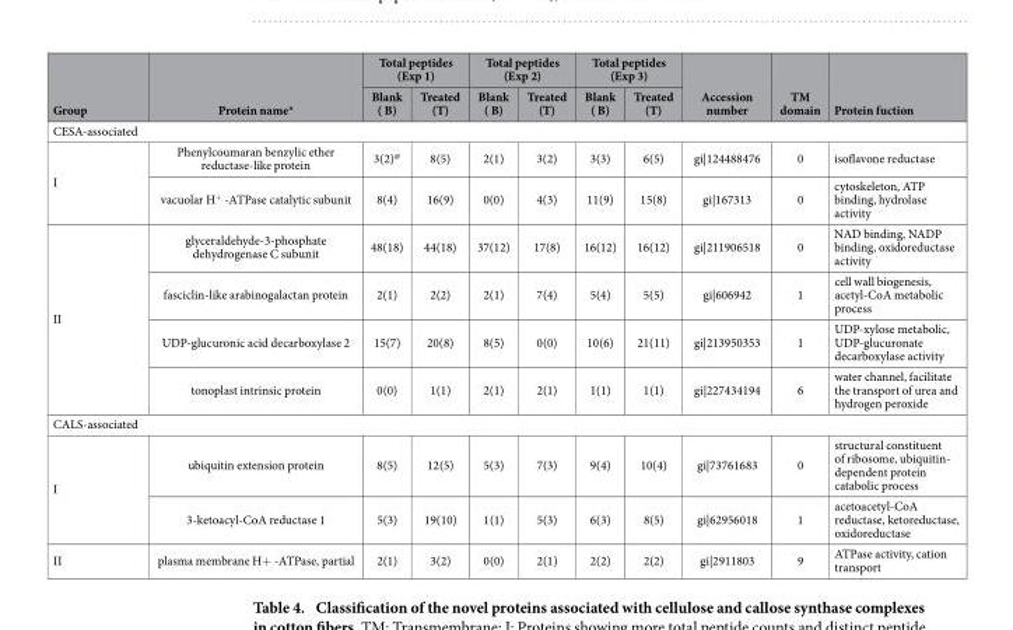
<table><thead><tr><td rowspan="2">Group</td><td rowspan="2">Protein name*</td><td colspan="2">Total peptides (Exp 1)</td><td colspan="2">Total peptides (Exp 2)</td><td colspan="2">Total peptides (Exp 3)</td><td rowspan="2">Accession number</td><td rowspan="2">TM domain</td><td rowspan="2">Protein fuction</td></tr><tr><td>Blank ( B)</td><td>Treated (T)</td><td>Blank ( B)</td><td>Treated (T)</td><td>Blank ( B)</td><td>Treated (T)</td></tr></thead><tbody><tr><td colspan="11">CESA-associated</td></tr><tr><td rowspan="2">I</td><td>Phenylcoumaran benzylic ether reductase-like protein</td><td>3(2)@</td><td>8(5)</td><td>2(1)</td><td>3(2)</td><td>3(3)</td><td>6(5)</td><td>gi|124488476</td><td>0</td><td>isoflavone reductase</td></tr><tr><td>vacuolar H<sup>+</sup> -ATPase catalytic subunit</td><td>8(4)</td><td>16(9)</td><td>0(0)</td><td>4(3)</td><td>11(9)</td><td>15(8)</td><td>gi|167313</td><td>0</td><td>cytoskeleton, ATP binding, hydrolase activity</td></tr><tr><td rowspan="4">II</td><td>glyceraldehyde-3-phosphate dehydrogenase C subunit</td><td>48(18)</td><td>44(18)</td><td>37(12)</td><td>17(8)</td><td>16(12)</td><td>16(12)</td><td>gi|211906518</td><td>0</td><td>NAD binding, NADP binding, oxidoreductase activity</td></tr><tr><td>fasciclin-like arabinogalactan protein</td><td>2(1)</td><td>2(2)</td><td>2(1)</td><td>7(4)</td><td>5(4)</td><td>5(5)</td><td>gi|606942</td><td>1</td><td>cell wall biogenesis, acetyl-CoA metabolic process</td></tr><tr><td>UDP-glucuronic acid decarboxylase 2</td><td>15(7)</td><td>20(8)</td><td>8(5)</td><td>0(0)</td><td>10(6)</td><td>21(11)</td><td>gi|213950353</td><td>1</td><td>UDP-xylose metabolic, UDP-glucuronate decarboxylase activity</td></tr><tr><td>tonoplast intrinsic protein</td><td>0(0)</td><td>1(1)</td><td>2(1)</td><td>2(1)</td><td>1(1)</td><td>1(1)</td><td>gi|227434194</td><td>6</td><td>water channel, facilitate the transport of urea and hydrogen peroxide</td></tr><tr><td colspan="11">CALS-associated</td></tr><tr><td rowspan="2">I</td><td>ubiquitin extension protein</td><td>8(5)</td><td>12(5)</td><td>5(3)</td><td>7(3)</td><td>9(4)</td><td>10(4)</td><td>gi|73761683</td><td>0</td><td>structural constituent of ribosome, ubiquitin- dependent protein catabolic process</td></tr><tr><td>3-ketoacyl-CoA reductase 1</td><td>5(3)</td><td>19(10)</td><td>1(1)</td><td>5(3)</td><td>6(3)</td><td>8(5)</td><td>gi|62956018</td><td>1</td><td>acetoacetyl-CoA reductase, ketoreductase, oxidoreductase</td></tr><tr><td>II</td><td>plasma membrane H+ -ATPase, partial</td><td>2(1)</td><td>3(2)</td><td>0(0)</td><td>2(1)</td><td>2(2)</td><td>2(2)</td><td>gi|2911803</td><td>9</td><td>ATPase activity, cation transport</td></tr></tbody></table>